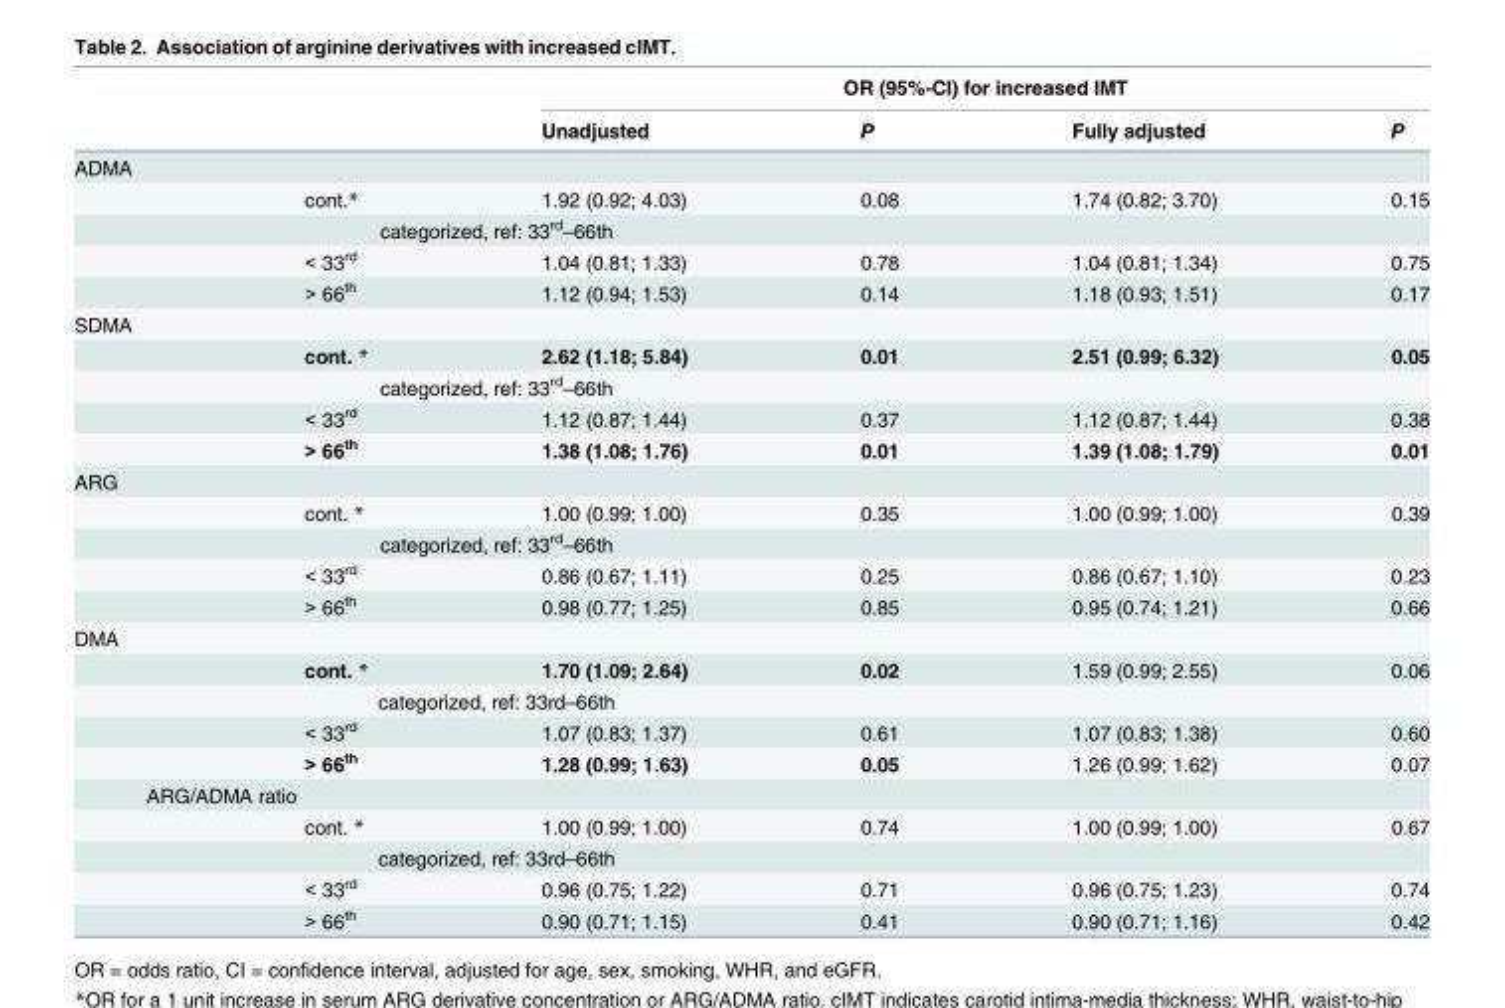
<table><thead><tr><td rowspan="2"></td><td rowspan="2"></td><td colspan="4">OR (95%-CI) for increased IMT</td></tr><tr><td>Unadjusted</td><td>P</td><td>Fully adjusted</td><td>P</td></tr></thead><tbody><tr><td colspan="6">ADMA</td></tr><tr><td></td><td>cont.*</td><td>1.92 (0.92; 4.03)</td><td>0.08</td><td>1.74 (0.82; 3.70)</td><td>0.15</td></tr><tr><td></td><td colspan="2">categorized, ref: 33<sup>rd</sup>–66th</td><td></td><td></td><td></td></tr><tr><td></td><td>&lt; 33<sup>rd</sup></td><td>1.04 (0.81; 1.33)</td><td>0.78</td><td>1.04 (0.81; 1.34)</td><td>0.75</td></tr><tr><td></td><td>&gt; 66<sup>th</sup></td><td>1.12 (0.94; 1.53)</td><td>0.14</td><td>1.18 (0.93; 1.51)</td><td>0.17</td></tr><tr><td colspan="6">SDMA</td></tr><tr><td></td><td>cont. *</td><td>2.62 (1.18; 5.84)</td><td>0.01</td><td>2.51 (0.99; 6.32)</td><td>0.05</td></tr><tr><td></td><td colspan="2">categorized, ref: 33<sup>rd</sup>–66th</td><td></td><td></td><td></td></tr><tr><td></td><td>&lt; 33<sup>rd</sup></td><td>1.12 (0.87; 1.44)</td><td>0.37</td><td>1.12 (0.87; 1.44)</td><td>0.38</td></tr><tr><td></td><td>&gt; 66<sup>th</sup></td><td>1.38 (1.08; 1.76)</td><td>0.01</td><td>1.39 (1.08; 1.79)</td><td>0.01</td></tr><tr><td colspan="6">ARG</td></tr><tr><td></td><td>cont. *</td><td>1.00 (0.99; 1.00)</td><td>0.35</td><td>1.00 (0.99; 1.00)</td><td>0.39</td></tr><tr><td></td><td colspan="2">categorized, ref: 33<sup>rd</sup>–66th</td><td></td><td></td><td></td></tr><tr><td></td><td>&lt; 33<sup>rd</sup></td><td>0.86 (0.67; 1.11)</td><td>0.25</td><td>0.86 (0.67; 1.10)</td><td>0.23</td></tr><tr><td></td><td>&gt; 66<sup>th</sup></td><td>0.98 (0.77; 1.25)</td><td>0.85</td><td>0.95 (0.74; 1.21)</td><td>0.66</td></tr><tr><td colspan="6">DMA</td></tr><tr><td></td><td>cont. *</td><td>1.70 (1.09; 2.64)</td><td>0.02</td><td>1.59 (0.99; 2.55)</td><td>0.06</td></tr><tr><td></td><td colspan="2">categorized, ref: 33rd–66th</td><td></td><td></td><td></td></tr><tr><td></td><td>&lt; 33<sup>rd</sup></td><td>1.07 (0.83; 1.37)</td><td>0.61</td><td>1.07 (0.83; 1.38)</td><td>0.60</td></tr><tr><td></td><td>&gt; 66<sup>th</sup></td><td>1.28 (0.99; 1.63)</td><td>0.05</td><td>1.26 (0.99; 1.62)</td><td>0.07</td></tr><tr><td colspan="6">ARG/ADMA ratio</td></tr><tr><td></td><td>cont. *</td><td>1.00 (0.99; 1.00)</td><td>0.74</td><td>1.00 (0.99; 1.00)</td><td>0.67</td></tr><tr><td></td><td colspan="2">categorized, ref: 33rd–66th</td><td></td><td></td><td></td></tr><tr><td></td><td>&lt; 33<sup>rd</sup></td><td>0.96 (0.75; 1.22)</td><td>0.71</td><td>0.96 (0.75; 1.23)</td><td>0.74</td></tr><tr><td></td><td>&gt; 66<sup>th</sup></td><td>0.90 (0.71; 1.15)</td><td>0.41</td><td>0.90 (0.71; 1.16)</td><td>0.42</td></tr></tbody></table>